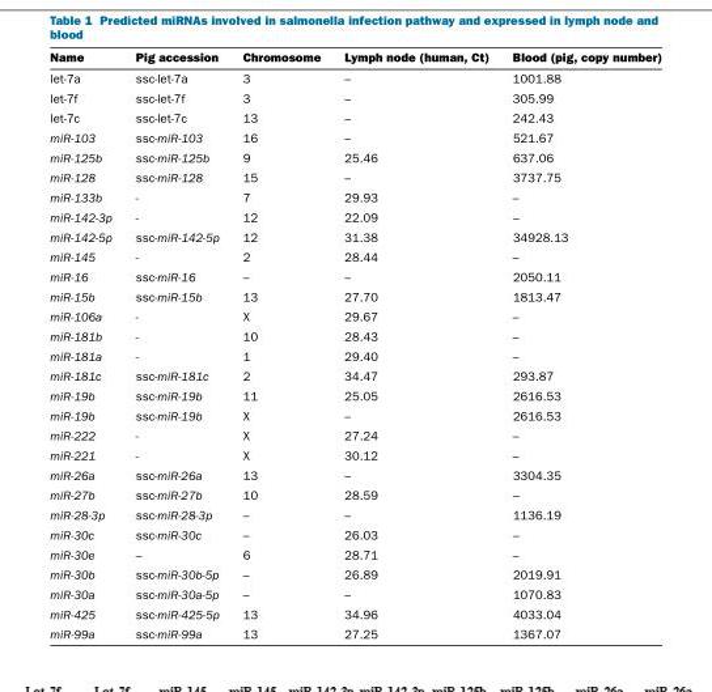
<table><thead><tr><td>Name</td><td>Pig accession</td><td>Chromosome</td><td>Lymph node (human, Ct)</td><td>Blood (pig, copy number)</td></tr></thead><tbody><tr><td>let-7a</td><td>ssc-let-7a</td><td>3</td><td>–</td><td>1001.88</td></tr><tr><td>let-7f</td><td>ssc-let-7f</td><td>3</td><td>–</td><td>305.99</td></tr><tr><td>let-7c</td><td>ssc-let-7c</td><td>13</td><td>–</td><td>242.43</td></tr><tr><td>miR-103</td><td>ssc-miR-103</td><td>16</td><td>–</td><td>521.67</td></tr><tr><td>miR-125b</td><td>ssc-miR-125b</td><td>9</td><td>25.46</td><td>637.06</td></tr><tr><td>miR-128</td><td>ssc-miR-128</td><td>15</td><td>–</td><td>3737.75</td></tr><tr><td>miR-133b</td><td>-</td><td>7</td><td>29.93</td><td>–</td></tr><tr><td>miR-142-3p</td><td>-</td><td>12</td><td>22.09</td><td>–</td></tr><tr><td>miR-142-5p</td><td>ssc-miR-142-5p</td><td>12</td><td>31.38</td><td>34928.13</td></tr><tr><td>miR-145</td><td>-</td><td>2</td><td>28.44</td><td>–</td></tr><tr><td>miR-16</td><td>ssc-miR-16</td><td>–</td><td>–</td><td>2050.11</td></tr><tr><td>miR-15b</td><td>ssc-miR-15b</td><td>13</td><td>27.70</td><td>1813.47</td></tr><tr><td>miR-106a</td><td>-</td><td>X</td><td>29.67</td><td>–</td></tr><tr><td>miR-181b</td><td>-</td><td>10</td><td>28.43</td><td>–</td></tr><tr><td>miR-181a</td><td>-</td><td>1</td><td>29.40</td><td>–</td></tr><tr><td>miR-181c</td><td>ssc-miR-181c</td><td>2</td><td>34.47</td><td>293.87</td></tr><tr><td>miR-19b</td><td>ssc-miR-19b</td><td>11</td><td>25.05</td><td>2616.53</td></tr><tr><td>miR-19b</td><td>ssc-miR-19b</td><td>X</td><td>–</td><td>2616.53</td></tr><tr><td>miR-222</td><td>-</td><td>X</td><td>27.24</td><td>–</td></tr><tr><td>miR-221</td><td>-</td><td>X</td><td>30.12</td><td>–</td></tr><tr><td>miR-26a</td><td>ssc-miR-26a</td><td>13</td><td>–</td><td>3304.35</td></tr><tr><td>miR-27b</td><td>ssc-miR-27b</td><td>10</td><td>28.59</td><td>–</td></tr><tr><td>miR-28-3p</td><td>ssc-miR-28-3p</td><td>–</td><td>–</td><td>1136.19</td></tr><tr><td>miR-30c</td><td>ssc-miR-30c</td><td>–</td><td>26.03</td><td>–</td></tr><tr><td>miR-30e</td><td>–</td><td>6</td><td>28.71</td><td>–</td></tr><tr><td>miR-30b</td><td>ssc-miR-30b-5p</td><td>–</td><td>26.89</td><td>2019.91</td></tr><tr><td>miR-30a</td><td>ssc-miR-30a-5p</td><td>–</td><td>–</td><td>1070.83</td></tr><tr><td>miR-425</td><td>ssc-miR-425-5p</td><td>13</td><td>34.96</td><td>4033.04</td></tr><tr><td>miR-99a</td><td>ssc-miR-99a</td><td>13</td><td>27.25</td><td>1367.07</td></tr></tbody></table>